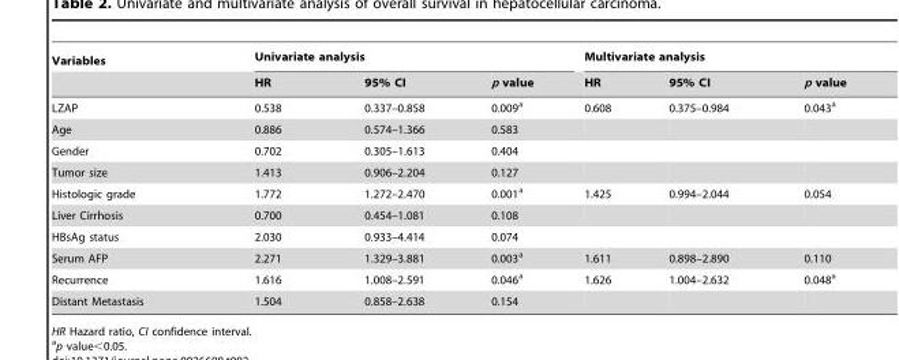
<table><thead><tr><td rowspan="2">Variables</td><td colspan="3">Univariate analysis</td><td colspan="3">Multivariate analysis</td></tr><tr><td>HR</td><td>95% CI</td><td>p value</td><td>HR</td><td>95% CI</td><td>p value</td></tr></thead><tbody><tr><td>LZAP</td><td>0.538</td><td>0.337–0.858</td><td>0.009<sup>a</sup></td><td>0.608</td><td>0.375–0.984</td><td>0.043<sup>a</sup></td></tr><tr><td>Age</td><td>0.886</td><td>0.574–1.366</td><td>0.583</td><td></td><td></td><td></td></tr><tr><td>Gender</td><td>0.702</td><td>0.305–1.613</td><td>0.404</td><td></td><td></td><td></td></tr><tr><td>Tumor size</td><td>1.413</td><td>0.906–2.204</td><td>0.127</td><td></td><td></td><td></td></tr><tr><td>Histologic grade</td><td>1.772</td><td>1.272–2.470</td><td>0.001<sup>a</sup></td><td>1.425</td><td>0.994–2.044</td><td>0.054</td></tr><tr><td>Liver Cirrhosis</td><td>0.700</td><td>0.454–1.081</td><td>0.108</td><td></td><td></td><td></td></tr><tr><td>HBsAg status</td><td>2.030</td><td>0.933–4.414</td><td>0.074</td><td></td><td></td><td></td></tr><tr><td>Serum AFP</td><td>2.271</td><td>1.329–3.881</td><td>0.003<sup>a</sup></td><td>1.611</td><td>0.898–2.890</td><td>0.110</td></tr><tr><td>Recurrence</td><td>1.616</td><td>1.008–2.591</td><td>0.046<sup>a</sup></td><td>1.626</td><td>1.004–2.632</td><td>0.048<sup>a</sup></td></tr><tr><td>Distant Metastasis</td><td>1.504</td><td>0.858–2.638</td><td>0.154</td><td></td><td></td><td></td></tr></tbody></table>